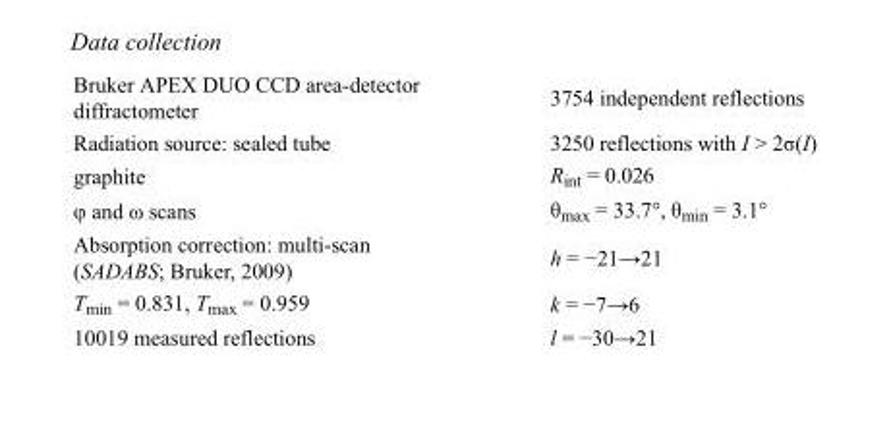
<table><tbody><tr><td>Bruker APEX DUO CCD area-detector diffractometer</td><td>3754 independent reflections</td></tr><tr><td>Radiation source: sealed tube</td><td>3250 reflections with I &gt; 2σ(I)</td></tr><tr><td>graphite</td><td>R<sub>int</sub> = 0.026</td></tr><tr><td>φ and ω scans</td><td>θ<sub>max</sub> = 33.7°, θ<sub>min</sub> = 3.1°</td></tr><tr><td>Absorption correction: multi-scan (SADABS; Bruker, 2009)</td><td>h = −21→21</td></tr><tr><td>T<sub>min</sub> = 0.831, T<sub>max</sub> = 0.959</td><td>k = −7→6</td></tr><tr><td>10019 measured reflections</td><td>l = −30→21</td></tr></tbody></table>